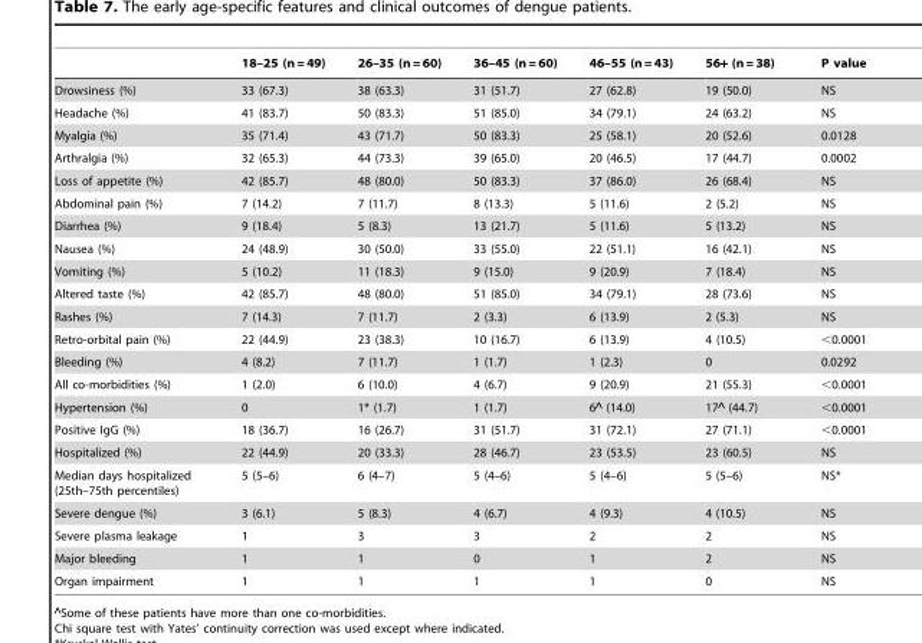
<table><thead><tr><td></td><td>18–25 (n = 49)</td><td>26–35 (n = 60)</td><td>36–45 (n = 60)</td><td>46–55 (n = 43)</td><td>56+ (n = 38)</td><td>P value</td></tr></thead><tbody><tr><td>Drowsiness (%)</td><td>33 (67.3)</td><td>38 (63.3)</td><td>31 (51.7)</td><td>27 (62.8)</td><td>19 (50.0)</td><td>NS</td></tr><tr><td>Headache (%)</td><td>41 (83.7)</td><td>50 (83.3)</td><td>51 (85.0)</td><td>34 (79.1)</td><td>24 (63.2)</td><td>NS</td></tr><tr><td>Myalgia (%)</td><td>35 (71.4)</td><td>43 (71.7)</td><td>50 (83.3)</td><td>25 (58.1)</td><td>20 (52.6)</td><td>0.0128</td></tr><tr><td>Arthralgia (%)</td><td>32 (65.3)</td><td>44 (73.3)</td><td>39 (65.0)</td><td>20 (46.5)</td><td>17 (44.7)</td><td>0.0002</td></tr><tr><td>Loss of appetite (%)</td><td>42 (85.7)</td><td>48 (80.0)</td><td>50 (83.3)</td><td>37 (86.0)</td><td>26 (68.4)</td><td>NS</td></tr><tr><td>Abdominal pain (%)</td><td>7 (14.2)</td><td>7 (11.7)</td><td>8 (13.3)</td><td>5 (11.6)</td><td>2 (5.2)</td><td>NS</td></tr><tr><td>Diarrhea (%)</td><td>9 (18.4)</td><td>5 (8.3)</td><td>13 (21.7)</td><td>5 (11.6)</td><td>5 (13.2)</td><td>NS</td></tr><tr><td>Nausea (%)</td><td>24 (48.9)</td><td>30 (50.0)</td><td>33 (55.0)</td><td>22 (51.1)</td><td>16 (42.1)</td><td>NS</td></tr><tr><td>Vomiting (%)</td><td>5 (10.2)</td><td>11 (18.3)</td><td>9 (15.0)</td><td>9 (20.9)</td><td>7 (18.4)</td><td>NS</td></tr><tr><td>Altered taste (%)</td><td>42 (85.7)</td><td>48 (80.0)</td><td>51 (85.0)</td><td>34 (79.1)</td><td>28 (73.6)</td><td>NS</td></tr><tr><td>Rashes (%)</td><td>7 (14.3)</td><td>7 (11.7)</td><td>2 (3.3)</td><td>6 (13.9)</td><td>2 (5.3)</td><td>NS</td></tr><tr><td>Retro-orbital pain (%)</td><td>22 (44.9)</td><td>23 (38.3)</td><td>10 (16.7)</td><td>6 (13.9)</td><td>4 (10.5)</td><td>&lt;0.0001</td></tr><tr><td>Bleeding (%)</td><td>4 (8.2)</td><td>7 (11.7)</td><td>1 (1.7)</td><td>1 (2.3)</td><td>0</td><td>0.0292</td></tr><tr><td>All co-morbidities (%)</td><td>1 (2.0)</td><td>6 (10.0)</td><td>4 (6.7)</td><td>9 (20.9)</td><td>21 (55.3)</td><td>&lt;0.0001</td></tr><tr><td>Hypertension (%)</td><td>0</td><td>1* (1.7)</td><td>1 (1.7)</td><td>6‘ (14.0)</td><td>17‘ (44.7)</td><td>&lt;0.0001</td></tr><tr><td>Positive IgG (%)</td><td>18 (36.7)</td><td>16 (26.7)</td><td>31 (51.7)</td><td>31 (72.1)</td><td>27 (71.1)</td><td>&lt;0.0001</td></tr><tr><td>Hospitalized (%)</td><td>22 (44.9)</td><td>20 (33.3)</td><td>28 (46.7)</td><td>23 (53.5)</td><td>23 (60.5)</td><td>NS</td></tr><tr><td>Median days hospitalized (25th–75th percentiles)</td><td>5 (5–6)</td><td>6 (4–7)</td><td>5 (4–6)</td><td>5 (4–6)</td><td>5 (5–6)</td><td>NS*</td></tr><tr><td>Severe dengue (%)</td><td>3 (6.1)</td><td>5 (8.3)</td><td>4 (6.7)</td><td>4 (9.3)</td><td>4 (10.5)</td><td>NS</td></tr><tr><td>Severe plasma leakage</td><td>1</td><td>3</td><td>3</td><td>2</td><td>2</td><td>NS</td></tr><tr><td>Major bleeding</td><td>1</td><td>1</td><td>0</td><td>1</td><td>2</td><td>NS</td></tr><tr><td>Organ impairment</td><td>1</td><td>1</td><td>1</td><td>1</td><td>0</td><td>NS</td></tr></tbody></table>